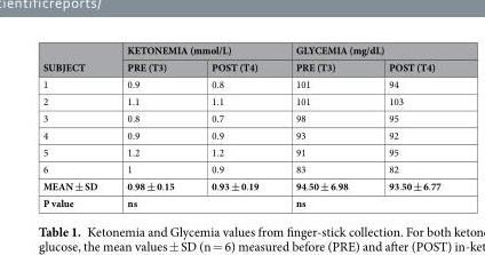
<table><thead><tr><td rowspan="2">SUBJECT</td><td colspan="2">KETONEMIA (mmol/L)</td><td colspan="2">GLYCEMIA (mg/dL)</td></tr><tr><td>PRE (T3)</td><td>POST (T4)</td><td>PRE (T3)</td><td>POST (T4)</td></tr></thead><tbody><tr><td>1</td><td>0.9</td><td>0.8</td><td>101</td><td>94</td></tr><tr><td>2</td><td>1.1</td><td>1.1</td><td>101</td><td>103</td></tr><tr><td>3</td><td>0.8</td><td>0.7</td><td>98</td><td>95</td></tr><tr><td>4</td><td>0.9</td><td>0.9</td><td>93</td><td>92</td></tr><tr><td>5</td><td>1.2</td><td>1.2</td><td>91</td><td>95</td></tr><tr><td>6</td><td>1</td><td>0.9</td><td>83</td><td>82</td></tr><tr><td>MEAN ± SD</td><td>0.98 ± 0.15</td><td>0.93 ± 0.19</td><td>94.50 ± 6.98</td><td>93.50 ± 6.77</td></tr><tr><td>P value</td><td colspan="2">ns</td><td colspan="2">ns</td></tr></tbody></table>